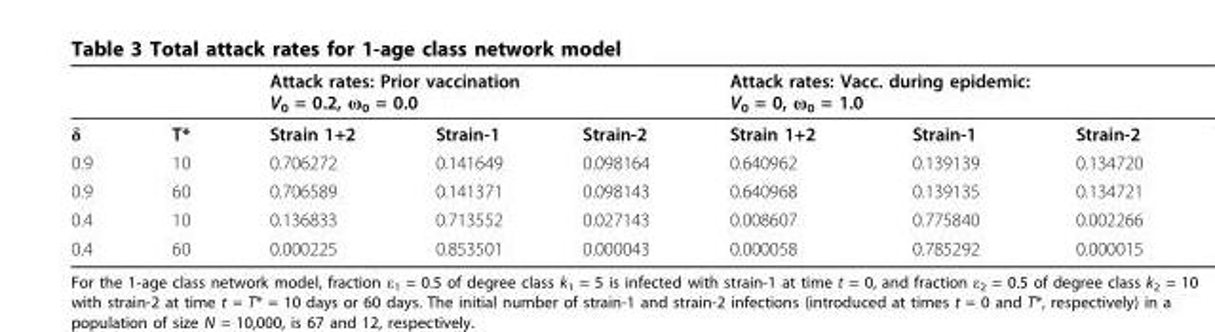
<table><thead><tr><td rowspan="2">δ</td><td rowspan="2">T*</td><td colspan="3">Attack rates: Prior vaccination V<sub>0</sub> = 0.2, ω<sub>0</sub> = 0.0</td><td colspan="3">Attack rates: Vacc. during epidemic: V<sub>0</sub> = 0, ω<sub>0</sub> = 1.0</td></tr><tr><td>Strain 1+2</td><td>Strain-1</td><td>Strain-2</td><td>Strain 1+2</td><td>Strain-1</td><td>Strain-2</td></tr></thead><tbody><tr><td>0.9</td><td>10</td><td>0.706272</td><td>0.141649</td><td>0.098164</td><td>0.640962</td><td>0.139139</td><td>0.134720</td></tr><tr><td>0.9</td><td>60</td><td>0.706589</td><td>0.141371</td><td>0.098143</td><td>0.640968</td><td>0.139135</td><td>0.134721</td></tr><tr><td>0.4</td><td>10</td><td>0.136833</td><td>0.713552</td><td>0.027143</td><td>0.008607</td><td>0.775840</td><td>0.002266</td></tr><tr><td>0.4</td><td>60</td><td>0.000225</td><td>0.853501</td><td>0.000043</td><td>0.000058</td><td>0.785292</td><td>0.000015</td></tr></tbody></table>